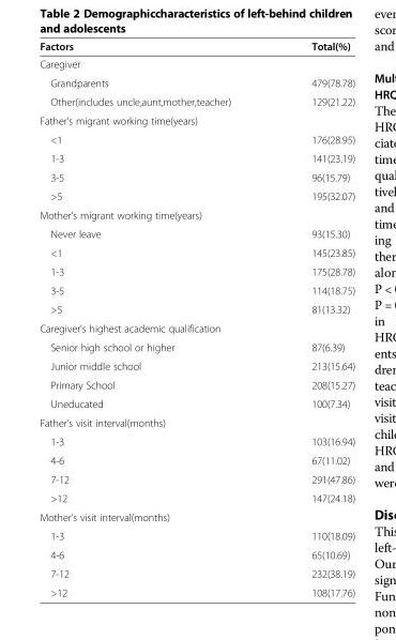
<table><thead><tr><td>Factors</td><td>Total(%)</td></tr></thead><tbody><tr><td colspan="2">Caregiver</td></tr><tr><td>Grandparents</td><td>479(78.78)</td></tr><tr><td>Other(includes uncle,aunt,mother,teacher)</td><td>129(21.22)</td></tr><tr><td colspan="2">Father’s migrant working time(years)</td></tr><tr><td>&lt;1</td><td>176(28.95)</td></tr><tr><td>1-3</td><td>141(23.19)</td></tr><tr><td>3-5</td><td>96(15.79)</td></tr><tr><td>&gt;5</td><td>195(32.07)</td></tr><tr><td colspan="2">Mother’s migrant working time(years)</td></tr><tr><td>Never leave</td><td>93(15.30)</td></tr><tr><td>&lt;1</td><td>145(23.85)</td></tr><tr><td>1-3</td><td>175(28.78)</td></tr><tr><td>3-5</td><td>114(18.75)</td></tr><tr><td>&gt;5</td><td>81(13.32)</td></tr><tr><td colspan="2">Caregiver&#x27;s highest academic qualification</td></tr><tr><td>Senior high school or higher</td><td>87(6.39)</td></tr><tr><td>Junior middle school</td><td>213(15.64)</td></tr><tr><td>Primary School</td><td>208(15.27)</td></tr><tr><td>Uneducated</td><td>100(7.34)</td></tr><tr><td colspan="2">Father’s visit interval(months)</td></tr><tr><td>1-3</td><td>103(16.94)</td></tr><tr><td>4-6</td><td>67(11.02)</td></tr><tr><td>7-12</td><td>291(47.86)</td></tr><tr><td>&gt;12</td><td>147(24.18)</td></tr><tr><td colspan="2">Mother’s visit interval(months)</td></tr><tr><td>1-3</td><td>110(18.09)</td></tr><tr><td>4-6</td><td>65(10.69)</td></tr><tr><td>7-12</td><td>232(38.19)</td></tr><tr><td>&gt;12</td><td>108(17.76)</td></tr></tbody></table>